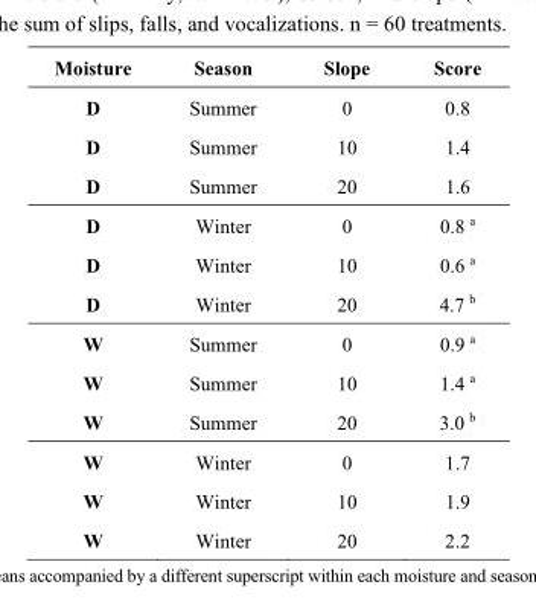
<table><thead><tr><td>Moisture</td><td>Season</td><td>Slope</td><td>Score</td></tr></thead><tbody><tr><td>D</td><td>Summer</td><td>0</td><td>0.8</td></tr><tr><td>D</td><td>Summer</td><td>10</td><td>1.4</td></tr><tr><td>D</td><td>Summer</td><td>20</td><td>1.6</td></tr><tr><td>D</td><td>Winter</td><td>0</td><td>0.8 <sup>a</sup></td></tr><tr><td>D</td><td>Winter</td><td>10</td><td>0.6 <sup>a</sup></td></tr><tr><td>D</td><td>Winter</td><td>20</td><td>4.7 <sup>b</sup></td></tr><tr><td>W</td><td>Summer</td><td>0</td><td>0.9 <sup>a</sup></td></tr><tr><td>W</td><td>Summer</td><td>10</td><td>1.4 <sup>a</sup></td></tr><tr><td>W</td><td>Summer</td><td>20</td><td>3.0 <sup>b</sup></td></tr><tr><td>W</td><td>Winter</td><td>0</td><td>1.7</td></tr><tr><td>W</td><td>Winter</td><td>10</td><td>1.9</td></tr><tr><td>W</td><td>Winter</td><td>20</td><td>2.2</td></tr></tbody></table>